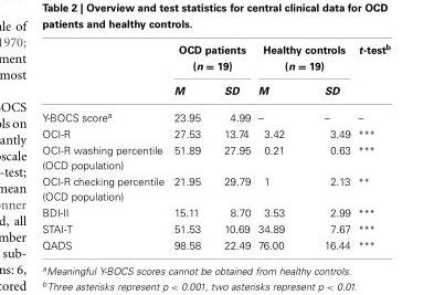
<table><thead><tr><td rowspan="3"></td><td rowspan="2" colspan="2">OCD patients (n = 19)</td><td rowspan="2" colspan="2">Healthy controls (n = 19)</td><td rowspan="3">t-test<sup>b</sup></td></tr><tr></tr><tr><td>M</td><td>SD</td><td>M</td><td>SD</td></tr></thead><tbody><tr><td>Y-BOCS score<sup>a</sup></td><td>23.95</td><td>4.99</td><td>–</td><td>–</td><td>–</td></tr><tr><td>OCI-R</td><td>27.53</td><td>13.74</td><td>3.42</td><td>3.49</td><td>***</td></tr><tr><td>OCI-R washing percentile (OCD population)</td><td>51.89</td><td>27.95</td><td>0.21</td><td>0.63</td><td>***</td></tr><tr><td>OCI-R checking percentile (OCD population)</td><td>21.95</td><td>29.79</td><td>1</td><td>2.13</td><td>**</td></tr><tr><td>BDI-II</td><td>15.11</td><td>8.70</td><td>3.53</td><td>2.99</td><td>***</td></tr><tr><td>STAI-T</td><td>51.53</td><td>10.69</td><td>34.89</td><td>7.67</td><td>***</td></tr><tr><td>QADS</td><td>98.58</td><td>22.49</td><td>76.00</td><td>16.44</td><td>***</td></tr></tbody></table>